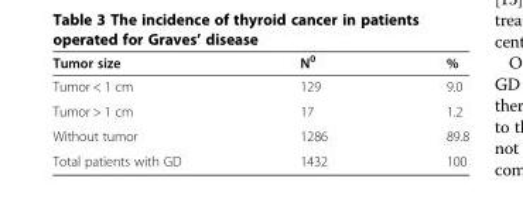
<table><thead><tr><td>Tumor size</td><td>N<sup>0</sup></td><td>%</td></tr></thead><tbody><tr><td>Tumor &lt; 1 cm</td><td>129</td><td>9.0</td></tr><tr><td>Tumor &gt; 1 cm</td><td>17</td><td>1.2</td></tr><tr><td>Without tumor</td><td>1286</td><td>89.8</td></tr><tr><td>Total patients with GD</td><td>1432</td><td>100</td></tr></tbody></table>